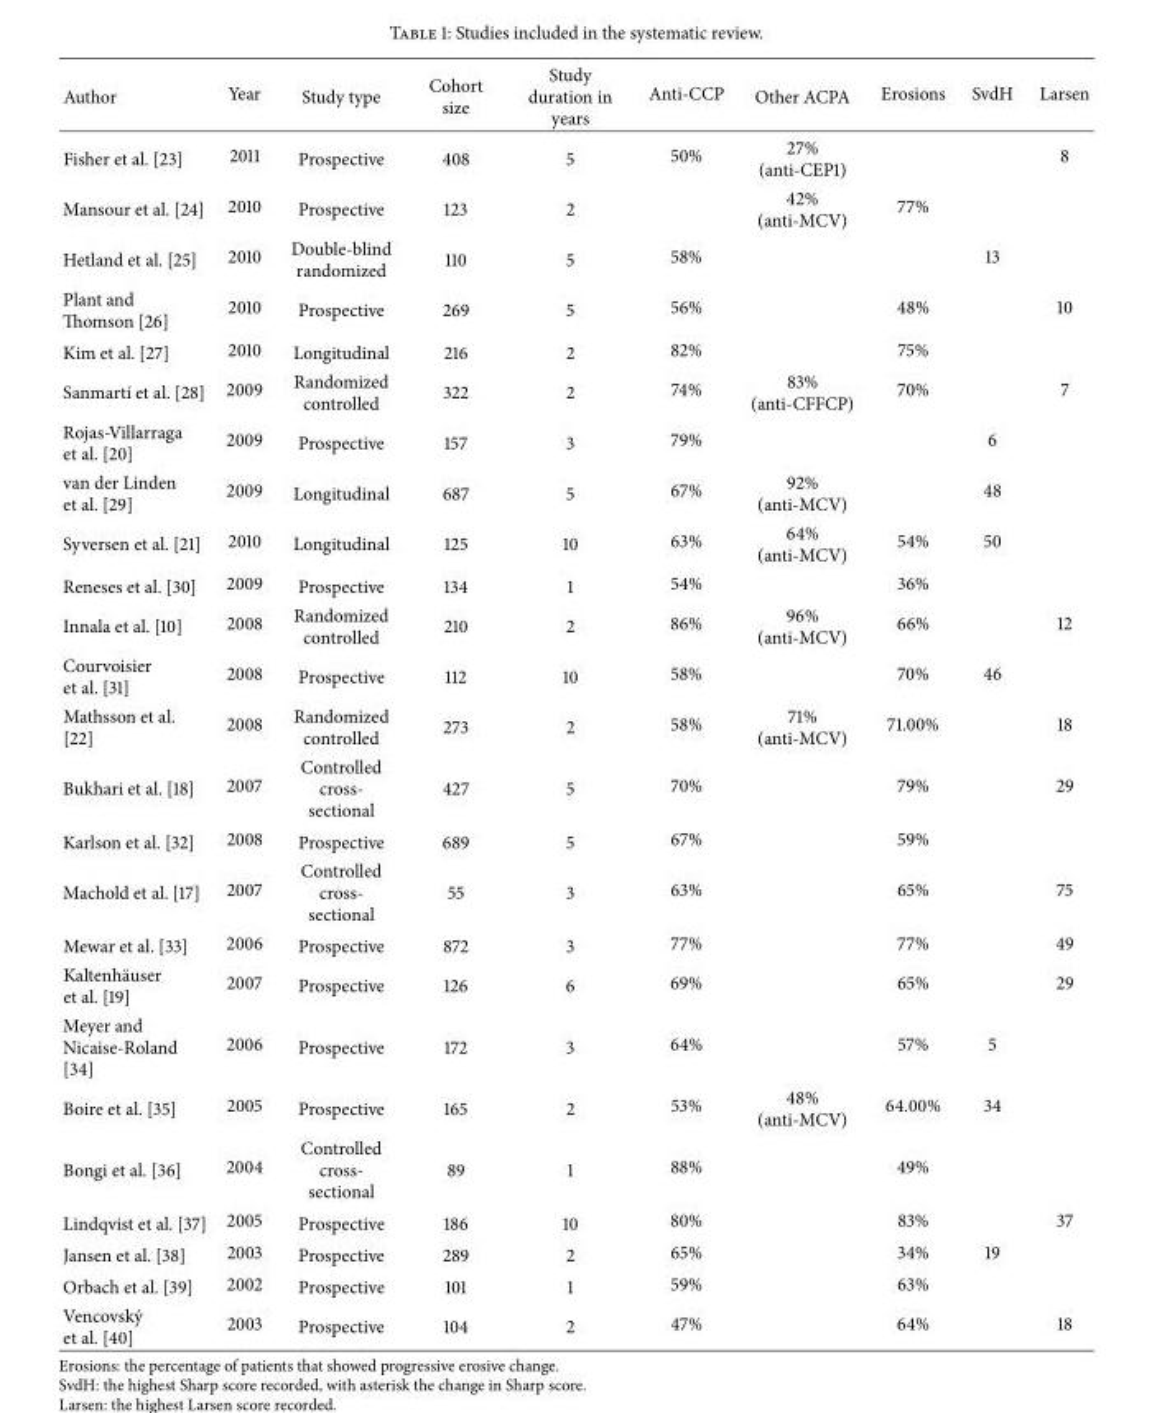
<table><thead><tr><td>Author</td><td>Year</td><td>Study type</td><td>Cohort size</td><td>Study duration in years</td><td>Anti-CCP</td><td>Other ACPA</td><td>Erosions</td><td>SvdH</td><td>Larsen</td></tr></thead><tbody><tr><td>Fisher et al. [23]</td><td>2011</td><td>Prospective</td><td>408</td><td>5</td><td>50%</td><td>27% (anti-CEP1)</td><td></td><td></td><td>8</td></tr><tr><td>Mansour et al. [24]</td><td>2010</td><td>Prospective</td><td>123</td><td>2</td><td></td><td>42% (anti-MCV)</td><td>77%</td><td></td><td></td></tr><tr><td>Hetland et al. [25]</td><td>2010</td><td>Double-blind randomized</td><td>110</td><td>5</td><td>58%</td><td></td><td></td><td>13</td><td></td></tr><tr><td>Plant and Thomson [26]</td><td>2010</td><td>Prospective</td><td>269</td><td>5</td><td>56%</td><td></td><td>48%</td><td></td><td>10</td></tr><tr><td>Kim et al. [27]</td><td>2010</td><td>Longitudinal</td><td>216</td><td>2</td><td>82%</td><td></td><td>75%</td><td></td><td></td></tr><tr><td>Sanmart´ı et al. [28]</td><td>2009</td><td>Randomized controlled</td><td>322</td><td>2</td><td>74%</td><td>83% (anti-CFFCP)</td><td>70%</td><td></td><td>7</td></tr><tr><td>Rojas-Villarraga et al. [20]</td><td>2009</td><td>Prospective</td><td>157</td><td>3</td><td>79%</td><td></td><td></td><td>6</td><td></td></tr><tr><td>van der Linden et al. [29]</td><td>2009</td><td>Longitudinal</td><td>687</td><td>5</td><td>67%</td><td>92% (anti-MCV)</td><td></td><td>48</td><td></td></tr><tr><td>Syversen et al. [21]</td><td>2010</td><td>Longitudinal</td><td>125</td><td>10</td><td>63%</td><td>64% (anti-MCV)</td><td>54%</td><td>50</td><td></td></tr><tr><td>Reneses et al. [30]</td><td>2009</td><td>Prospective</td><td>134</td><td>1</td><td>54%</td><td></td><td>36%</td><td></td><td></td></tr><tr><td>Innala et al. [10]</td><td>2008</td><td>Randomized controlled</td><td>210</td><td>2</td><td>86%</td><td>96% (anti-MCV)</td><td>66%</td><td></td><td>12</td></tr><tr><td>Courvoisier et al. [31]</td><td>2008</td><td>Prospective</td><td>112</td><td>10</td><td>58%</td><td></td><td>70%</td><td>46</td><td></td></tr><tr><td>Mathsson et al. [22]</td><td>2008</td><td>Randomized controlled</td><td>273</td><td>2</td><td>58%</td><td>71% (anti-MCV)</td><td>71.00%</td><td></td><td>18</td></tr><tr><td>Bukhari et al. [18]</td><td>2007</td><td>Controlled cross- sectional</td><td>427</td><td>5</td><td>70%</td><td></td><td>79%</td><td></td><td>29</td></tr><tr><td>Karlson et al. [32]</td><td>2008</td><td>Prospective</td><td>689</td><td>5</td><td>67%</td><td></td><td>59%</td><td></td><td></td></tr><tr><td>Machold et al. [17]</td><td>2007</td><td>Controlled cross- sectional</td><td>55</td><td>3</td><td>63%</td><td></td><td>65%</td><td></td><td>75</td></tr><tr><td>Mewar et al. [33]</td><td>2006</td><td>Prospective</td><td>872</td><td>3</td><td>77%</td><td></td><td>77%</td><td></td><td>49</td></tr><tr><td>Kaltenh¨auser et al. [19]</td><td>2007</td><td>Prospective</td><td>126</td><td>6</td><td>69%</td><td></td><td>65%</td><td></td><td>29</td></tr><tr><td>Meyer and Nicaise-Roland [34]</td><td>2006</td><td>Prospective</td><td>172</td><td>3</td><td>64%</td><td></td><td>57%</td><td>5</td><td></td></tr><tr><td>Boire et al. [35]</td><td>2005</td><td>Prospective</td><td>165</td><td>2</td><td>53%</td><td>48% (anti-MCV)</td><td>64.00%</td><td>34</td><td></td></tr><tr><td>Bongi et al. [36]</td><td>2004</td><td>Controlled cross- sectional</td><td>89</td><td>1</td><td>88%</td><td></td><td>49%</td><td></td><td></td></tr><tr><td>Lindqvist et al. [37]</td><td>2005</td><td>Prospective</td><td>186</td><td>10</td><td>80%</td><td></td><td>83%</td><td></td><td>37</td></tr><tr><td>Jansen et al. [38]</td><td>2003</td><td>Prospective</td><td>289</td><td>2</td><td>65%</td><td></td><td>34%</td><td>19</td><td></td></tr><tr><td>Orbach et al. [39]</td><td>2002</td><td>Prospective</td><td>101</td><td>1</td><td>59%</td><td></td><td>63%</td><td></td><td></td></tr><tr><td>Vencovsk´y et al. [40]</td><td>2003</td><td>Prospective</td><td>104</td><td>2</td><td>47%</td><td></td><td>64%</td><td></td><td>18</td></tr></tbody></table>